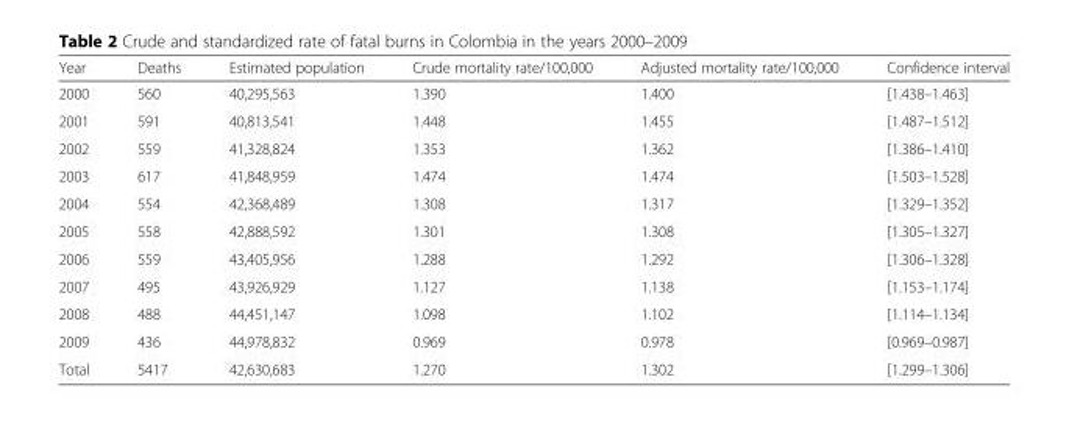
<table><thead><tr><td>Year</td><td>Deaths</td><td>Estimated population</td><td>Crude mortality rate/100,000</td><td>Adjusted mortality rate/100,000</td><td>Confidence interval</td></tr></thead><tbody><tr><td>2000</td><td>560</td><td>40,295,563</td><td>1.390</td><td>1.400</td><td>[1.438–1.463]</td></tr><tr><td>2001</td><td>591</td><td>40,813,541</td><td>1.448</td><td>1.455</td><td>[1.487–1.512]</td></tr><tr><td>2002</td><td>559</td><td>41,328,824</td><td>1.353</td><td>1.362</td><td>[1.386–1.410]</td></tr><tr><td>2003</td><td>617</td><td>41,848,959</td><td>1.474</td><td>1.474</td><td>[1.503–1.528]</td></tr><tr><td>2004</td><td>554</td><td>42,368,489</td><td>1.308</td><td>1.317</td><td>[1.329–1.352]</td></tr><tr><td>2005</td><td>558</td><td>42,888,592</td><td>1.301</td><td>1.308</td><td>[1.305–1.327]</td></tr><tr><td>2006</td><td>559</td><td>43,405,956</td><td>1.288</td><td>1.292</td><td>[1.306–1.328]</td></tr><tr><td>2007</td><td>495</td><td>43,926,929</td><td>1.127</td><td>1.138</td><td>[1.153–1.174]</td></tr><tr><td>2008</td><td>488</td><td>44,451,147</td><td>1.098</td><td>1.102</td><td>[1.114–1.134]</td></tr><tr><td>2009</td><td>436</td><td>44,978,832</td><td>0.969</td><td>0.978</td><td>[0.969–0.987]</td></tr><tr><td>Total</td><td>5417</td><td>42,630,683</td><td>1.270</td><td>1.302</td><td>[1.299–1.306]</td></tr></tbody></table>